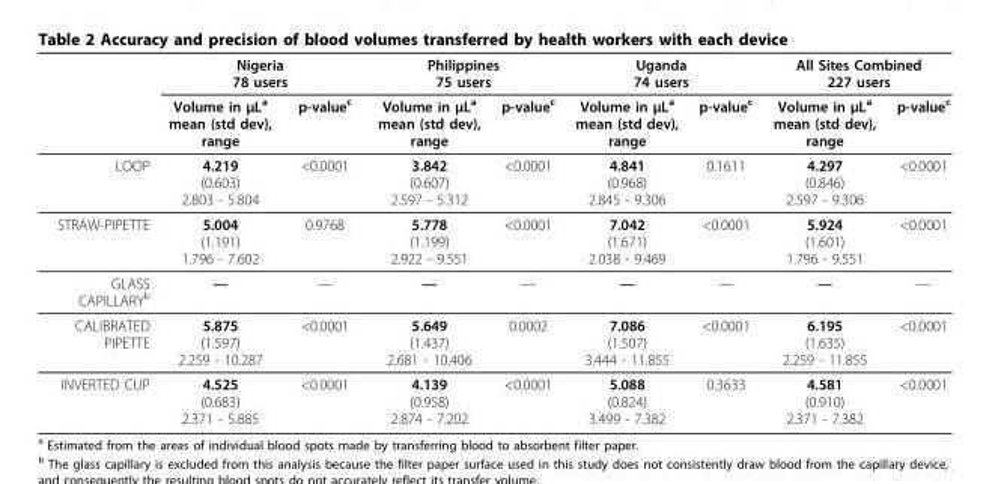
<table><thead><tr><td rowspan="2"></td><td colspan="2">Nigeria 78 users</td><td colspan="2">Philippines 75 users</td><td colspan="2">Uganda 74 users</td><td colspan="2">All Sites Combined 227 users</td></tr><tr><td>Volume in μL<sup>a</sup> mean (std dev), range</td><td>p-value<sup>c</sup></td><td>Volume in μL<sup>a</sup> mean (std dev), range</td><td>p-value<sup>c</sup></td><td>Volume in μL<sup>a</sup> mean (std dev), range</td><td>p-value<sup>c</sup></td><td>Volume in μL<sup>a</sup> mean (std dev), range</td><td>p-value<sup>c</sup></td></tr></thead><tbody><tr><td>LOOP</td><td>4.219 (0.603) 2.803 - 5.804</td><td>&lt;0.0001</td><td>3.842 (0.607) 2.597 - 5.312</td><td>&lt;0.0001</td><td>4.841 (0.968) 2.845 - 9.306</td><td>0.1611</td><td>4.297 (0.846) 2.597 - 9.306</td><td>&lt;0.0001</td></tr><tr><td>STRAW-PIPETTE</td><td>5.004 (1.191) 1.796 - 7.602</td><td>0.9768</td><td>5.778 (1.199) 2.922 - 9.551</td><td>&lt;0.0001</td><td>7.042 (1.671) 2.038 - 9.469</td><td>&lt;0.0001</td><td>5.924 (1.601) 1.796 - 9.551</td><td>&lt;0.0001</td></tr><tr><td>GLASS CAPILLARYb</td><td>—</td><td>—</td><td>—</td><td>—</td><td>—</td><td>—</td><td>—</td><td>—</td></tr><tr><td>CALIBRATED PIPETTE</td><td>5.875 (1.597) 2.259 - 10.287</td><td>&lt;0.0001</td><td>5.649 (1.437) 2.681 - 10.406</td><td>0.0002</td><td>7.086 (1.507) 3.444 - 11.855</td><td>&lt;0.0001</td><td>6.195 (1.635) 2.259 - 11.855</td><td>&lt;0.0001</td></tr><tr><td>INVERTED CUP</td><td>4.525 (0.683) 2.371 - 5.885</td><td>&lt;0.0001</td><td>4.139 (0.958) 2.874 - 7.202</td><td>&lt;0.0001</td><td>5.088 (0.824) 3.499 - 7.382</td><td>0.3633</td><td>4.581 (0.910) 2.371 - 7.382</td><td>&lt;0.0001</td></tr></tbody></table>